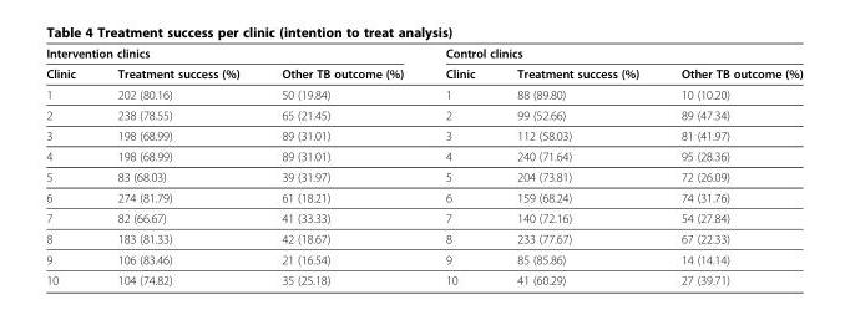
<table><thead><tr><td colspan="3">Intervention clinics</td><td colspan="3">Control clinics</td></tr><tr><td>Clinic</td><td>Treatment success (%)</td><td>Other TB outcome (%)</td><td>Clinic</td><td>Treatment success (%)</td><td>Other TB outcome (%)</td></tr></thead><tbody><tr><td>1</td><td>202 (80.16)</td><td>50 (19.84)</td><td>1</td><td>88 (89.80)</td><td>10 (10.20)</td></tr><tr><td>2</td><td>238 (78.55)</td><td>65 (21.45)</td><td>2</td><td>99 (52.66)</td><td>89 (47.34)</td></tr><tr><td>3</td><td>198 (68.99)</td><td>89 (31.01)</td><td>3</td><td>112 (58.03)</td><td>81 (41.97)</td></tr><tr><td>4</td><td>198 (68.99)</td><td>89 (31.01)</td><td>4</td><td>240 (71.64)</td><td>95 (28.36)</td></tr><tr><td>5</td><td>83 (68.03)</td><td>39 (31.97)</td><td>5</td><td>204 (73.81)</td><td>72 (26.09)</td></tr><tr><td>6</td><td>274 (81.79)</td><td>61 (18.21)</td><td>6</td><td>159 (68.24)</td><td>74 (31.76)</td></tr><tr><td>7</td><td>82 (66.67)</td><td>41 (33.33)</td><td>7</td><td>140 (72.16)</td><td>54 (27.84)</td></tr><tr><td>8</td><td>183 (81.33)</td><td>42 (18.67)</td><td>8</td><td>233 (77.67)</td><td>67 (22.33)</td></tr><tr><td>9</td><td>106 (83.46)</td><td>21 (16.54)</td><td>9</td><td>85 (85.86)</td><td>14 (14.14)</td></tr><tr><td>10</td><td>104 (74.82)</td><td>35 (25.18)</td><td>10</td><td>41 (60.29)</td><td>27 (39.71)</td></tr></tbody></table>